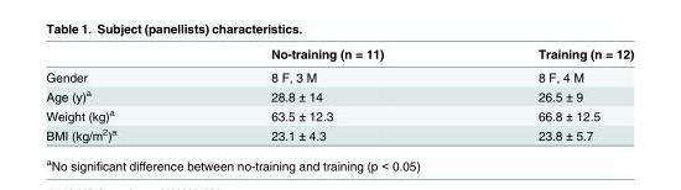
<table><thead><tr><td></td><td>No-training (n = 11)</td><td>Training (n = 12)</td></tr></thead><tbody><tr><td>Gender</td><td>8 F, 3 M</td><td>8 F, 4 M</td></tr><tr><td>Age (y)<sup>a</sup></td><td>28.8 ± 14</td><td>26.5 ± 9</td></tr><tr><td>Weight (kg)<sup>a</sup></td><td>63.5 ± 12.3</td><td>66.8 ± 12.5</td></tr><tr><td>BMI (kg/m<sup>2</sup>)<sup>a</sup></td><td>23.1 ± 4.3</td><td>23.8 ± 5.7</td></tr></tbody></table>